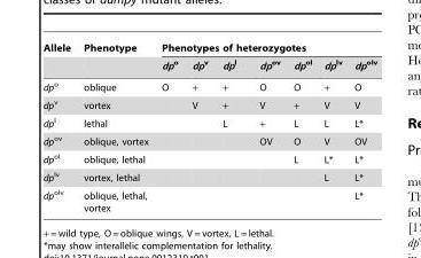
<table><thead><tr><td rowspan="2">Allele</td><td rowspan="2">Phenotype</td><td colspan="7">Phenotypes of heterozygotes</td></tr><tr><td>dp<sup>o</sup></td><td>dp<sup>v</sup></td><td>dp<sup>l</sup></td><td>dp<sup>ov</sup></td><td>dp<sup>ol</sup></td><td>dp<sup>lv</sup></td><td>dp<sup>olv</sup></td></tr></thead><tbody><tr><td>dp<sup>o</sup></td><td>oblique</td><td>O</td><td>+</td><td>+</td><td>O</td><td>O</td><td>+</td><td>O</td></tr><tr><td>dp<sup>v</sup></td><td>vortex</td><td></td><td>V</td><td>+</td><td>V</td><td>+</td><td>V</td><td>V</td></tr><tr><td>dp<sup>l</sup></td><td>lethal</td><td></td><td></td><td>L</td><td>+</td><td>L</td><td>L</td><td>L*</td></tr><tr><td>dp<sup>ov</sup></td><td>oblique, vortex</td><td></td><td></td><td></td><td>OV</td><td>O</td><td>V</td><td>OV</td></tr><tr><td>dp<sup>ol</sup></td><td>oblique, lethal</td><td></td><td></td><td></td><td></td><td>L</td><td>L*</td><td>L*</td></tr><tr><td>dp<sup>lv</sup></td><td>vortex, lethal</td><td></td><td></td><td></td><td></td><td></td><td>L</td><td>L*</td></tr><tr><td>dp<sup>olv</sup></td><td>oblique, lethal, vortex</td><td></td><td></td><td></td><td></td><td></td><td></td><td>L*</td></tr></tbody></table>